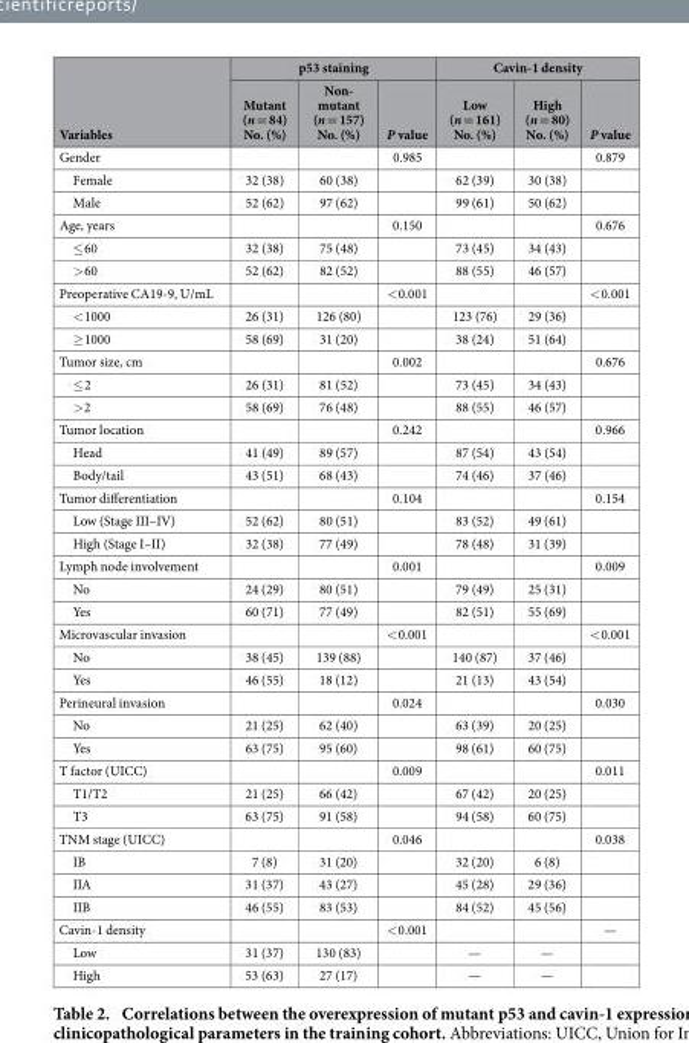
<table><thead><tr><td rowspan="2">Variables</td><td colspan="3">p53 staining</td><td colspan="3">Cavin-1 density</td></tr><tr><td>Mutant (n = 84) No. (%)</td><td>Non- mutant (n = 157) No. (%)</td><td>P value</td><td>Low (n = 161) No. (%)</td><td>High (n = 80) No. (%)</td><td>P value</td></tr></thead><tbody><tr><td>Gender</td><td></td><td></td><td>0.985</td><td></td><td></td><td>0.879</td></tr><tr><td>Female</td><td>32 (38)</td><td>60 (38)</td><td></td><td>62 (39)</td><td>30 (38)</td><td></td></tr><tr><td>Male</td><td>52 (62)</td><td>97 (62)</td><td></td><td>99 (61)</td><td>50 (62)</td><td></td></tr><tr><td>Age, years</td><td></td><td></td><td>0.150</td><td></td><td></td><td>0.676</td></tr><tr><td>≤ 60</td><td>32 (38)</td><td>75 (48)</td><td></td><td>73 (45)</td><td>34 (43)</td><td></td></tr><tr><td>&gt; 60</td><td>52 (62)</td><td>82 (52)</td><td></td><td>88 (55)</td><td>46 (57)</td><td></td></tr><tr><td>Preoperative CA19-9, U/mL</td><td></td><td></td><td>&lt; 0.001</td><td></td><td></td><td>&lt; 0.001</td></tr><tr><td>&lt; 1000</td><td>26 (31)</td><td>126 (80)</td><td></td><td>123 (76)</td><td>29 (36)</td><td></td></tr><tr><td>≥ 1000</td><td>58 (69)</td><td>31 (20)</td><td></td><td>38 (24)</td><td>51 (64)</td><td></td></tr><tr><td>Tumor size, cm</td><td></td><td></td><td>0.002</td><td></td><td></td><td>0.676</td></tr><tr><td>≤ 2</td><td>26 (31)</td><td>81 (52)</td><td></td><td>73 (45)</td><td>34 (43)</td><td></td></tr><tr><td>&gt; 2</td><td>58 (69)</td><td>76 (48)</td><td></td><td>88 (55)</td><td>46 (57)</td><td></td></tr><tr><td>Tumor location</td><td></td><td></td><td>0.242</td><td></td><td></td><td>0.966</td></tr><tr><td>Head</td><td>41 (49)</td><td>89 (57)</td><td></td><td>87 (54)</td><td>43 (54)</td><td></td></tr><tr><td>Body/tail</td><td>43 (51)</td><td>68 (43)</td><td></td><td>74 (46)</td><td>37 (46)</td><td></td></tr><tr><td>Tumor differentiation</td><td></td><td></td><td>0.104</td><td></td><td></td><td>0.154</td></tr><tr><td>Low (Stage III–IV)</td><td>52 (62)</td><td>80 (51)</td><td></td><td>83 (52)</td><td>49 (61)</td><td></td></tr><tr><td>High (Stage I–II)</td><td>32 (38)</td><td>77 (49)</td><td></td><td>78 (48)</td><td>31 (39)</td><td></td></tr><tr><td>Lymph node involvement</td><td></td><td></td><td>0.001</td><td></td><td></td><td>0.009</td></tr><tr><td>No</td><td>24 (29)</td><td>80 (51)</td><td></td><td>79 (49)</td><td>25 (31)</td><td></td></tr><tr><td>Yes</td><td>60 (71)</td><td>77 (49)</td><td></td><td>82 (51)</td><td>55 (69)</td><td></td></tr><tr><td>Microvascular invasion</td><td></td><td></td><td>&lt; 0.001</td><td></td><td></td><td>&lt; 0.001</td></tr><tr><td>No</td><td>38 (45)</td><td>139 (88)</td><td></td><td>140 (87)</td><td>37 (46)</td><td></td></tr><tr><td>Yes</td><td>46 (55)</td><td>18 (12)</td><td></td><td>21 (13)</td><td>43 (54)</td><td></td></tr><tr><td>Perineural invasion</td><td></td><td></td><td>0.024</td><td></td><td></td><td>0.030</td></tr><tr><td>No</td><td>21 (25)</td><td>62 (40)</td><td></td><td>63 (39)</td><td>20 (25)</td><td></td></tr><tr><td>Yes</td><td>63 (75)</td><td>95 (60)</td><td></td><td>98 (61)</td><td>60 (75)</td><td></td></tr><tr><td>T factor (UICC)</td><td></td><td></td><td>0.009</td><td></td><td></td><td>0.011</td></tr><tr><td>T1/T2</td><td>21 (25)</td><td>66 (42)</td><td></td><td>67 (42)</td><td>20 (25)</td><td></td></tr><tr><td>T3</td><td>63 (75)</td><td>91 (58)</td><td></td><td>94 (58)</td><td>60 (75)</td><td></td></tr><tr><td>TNM stage (UICC)</td><td></td><td></td><td>0.046</td><td></td><td></td><td>0.038</td></tr><tr><td>IB</td><td>7 (8)</td><td>31 (20)</td><td></td><td>32 (20)</td><td>6 (8)</td><td></td></tr><tr><td>IIA</td><td>31 (37)</td><td>43 (27)</td><td></td><td>45 (28)</td><td>29 (36)</td><td></td></tr><tr><td>IIB</td><td>46 (55)</td><td>83 (53)</td><td></td><td>84 (52)</td><td>45 (56)</td><td></td></tr><tr><td>Cavin-1 density</td><td></td><td></td><td>&lt; 0.001</td><td></td><td></td><td>—</td></tr><tr><td>Low</td><td>31 (37)</td><td>130 (83)</td><td></td><td>—</td><td>—</td><td></td></tr><tr><td>High</td><td>53 (63)</td><td>27 (17)</td><td></td><td>—</td><td>—</td><td></td></tr></tbody></table>